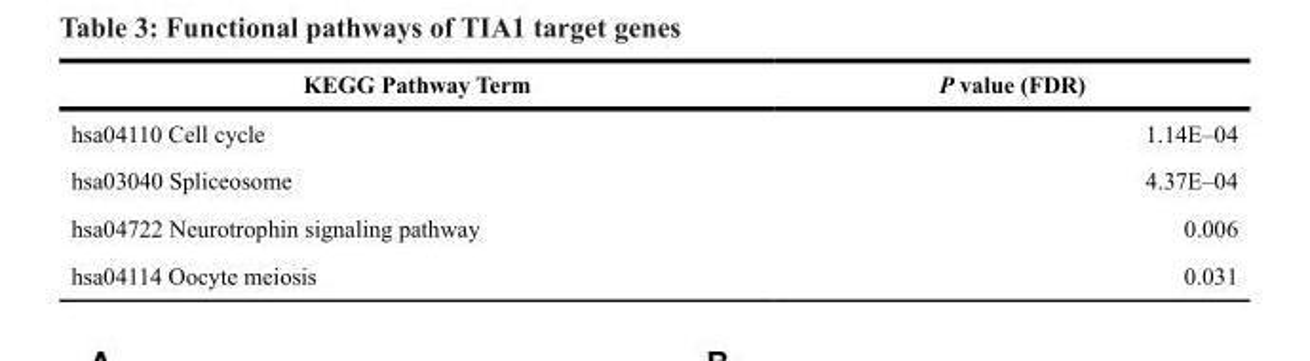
<table><thead><tr><td>KEGG Pathway Term</td><td>P value (FDR)</td></tr></thead><tbody><tr><td>hsa04110 Cell cycle</td><td>1.14E–04</td></tr><tr><td>hsa03040 Spliceosome</td><td>4.37E–04</td></tr><tr><td>hsa04722 Neurotrophin signaling pathway</td><td>0.006</td></tr><tr><td>hsa04114 Oocyte meiosis</td><td>0.031</td></tr></tbody></table>